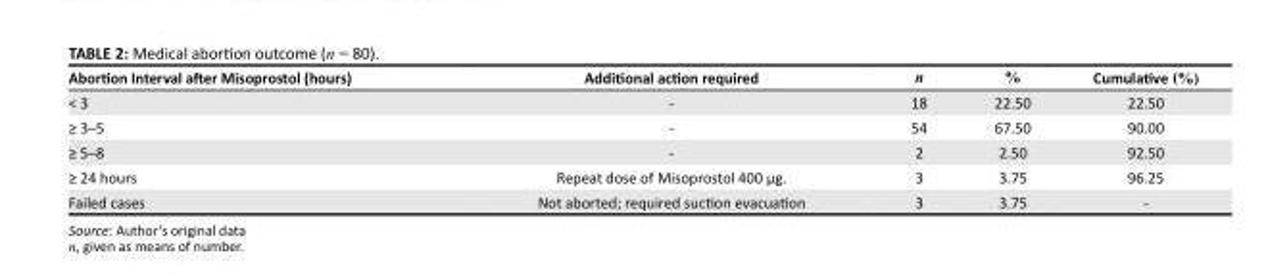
<table><thead><tr><td>Abortion Interval after Misoprostol (hours)</td><td>Additional action required</td><td>n</td><td>%</td><td>Cumulative (%)</td></tr></thead><tbody><tr><td>&lt; 3</td><td>-</td><td>18</td><td>22.50</td><td>22.50</td></tr><tr><td>≥ 3–5</td><td>-</td><td>54</td><td>67.50</td><td>90.00</td></tr><tr><td>≥ 5–8</td><td>-</td><td>2</td><td>2.50</td><td>92.50</td></tr><tr><td>≥ 24 hours</td><td>Repeat dose of Misoprostol 400 µg.</td><td>3</td><td>3.75</td><td>96.25</td></tr><tr><td>Failed cases</td><td>Not aborted; required suction evacuation</td><td>3</td><td>3.75</td><td>-</td></tr></tbody></table>